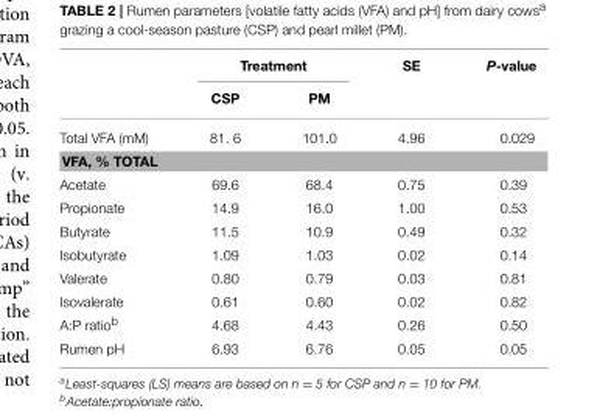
<table><thead><tr><td rowspan="2"></td><td colspan="2">Treatment</td><td rowspan="2">SE</td><td rowspan="2">P-value</td></tr><tr><td>CSP</td><td>PM</td></tr></thead><tbody><tr><td>Total VFA (mM)</td><td>81. 6</td><td>101.0</td><td>4.96</td><td>0.029</td></tr><tr><td colspan="5">VFA, % TOTAL</td></tr><tr><td>Acetate</td><td>69.6</td><td>68.4</td><td>0.75</td><td>0.39</td></tr><tr><td>Propionate</td><td>14.9</td><td>16.0</td><td>1.00</td><td>0.53</td></tr><tr><td>Butyrate</td><td>11.5</td><td>10.9</td><td>0.49</td><td>0.32</td></tr><tr><td>Isobutyrate</td><td>1.09</td><td>1.03</td><td>0.02</td><td>0.14</td></tr><tr><td>Valerate</td><td>0.80</td><td>0.79</td><td>0.03</td><td>0.81</td></tr><tr><td>Isovalerate</td><td>0.61</td><td>0.60</td><td>0.02</td><td>0.82</td></tr><tr><td>A:P ratio<sup>b</sup></td><td>4.68</td><td>4.43</td><td>0.26</td><td>0.50</td></tr><tr><td>Rumen pH</td><td>6.93</td><td>6.76</td><td>0.05</td><td>0.05</td></tr></tbody></table>